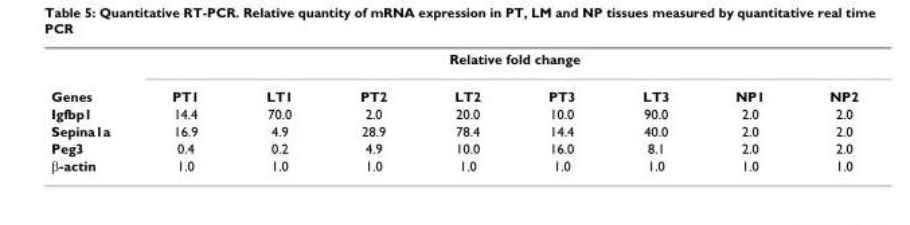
<table><thead><tr><td rowspan="2">Genes</td><td colspan="8">Relative fold change</td></tr><tr><td>PT1</td><td>LT1</td><td>PT2</td><td>LT2</td><td>PT3</td><td>LT3</td><td>NP1</td><td>NP2</td></tr></thead><tbody><tr><td>Igfbp1</td><td>14.4</td><td>70.0</td><td>2.0</td><td>20.0</td><td>10.0</td><td>90.0</td><td>2.0</td><td>2.0</td></tr><tr><td>Sepina1a</td><td>16.9</td><td>4.9</td><td>28.9</td><td>78.4</td><td>14.4</td><td>40.0</td><td>2.0</td><td>2.0</td></tr><tr><td>Peg3</td><td>0.4</td><td>0.2</td><td>4.9</td><td>10.0</td><td>16.0</td><td>8.1</td><td>2.0</td><td>2.0</td></tr><tr><td>β-actin</td><td>1.0</td><td>1.0</td><td>1.0</td><td>1.0</td><td>1.0</td><td>1.0</td><td>1.0</td><td>1.0</td></tr></tbody></table>